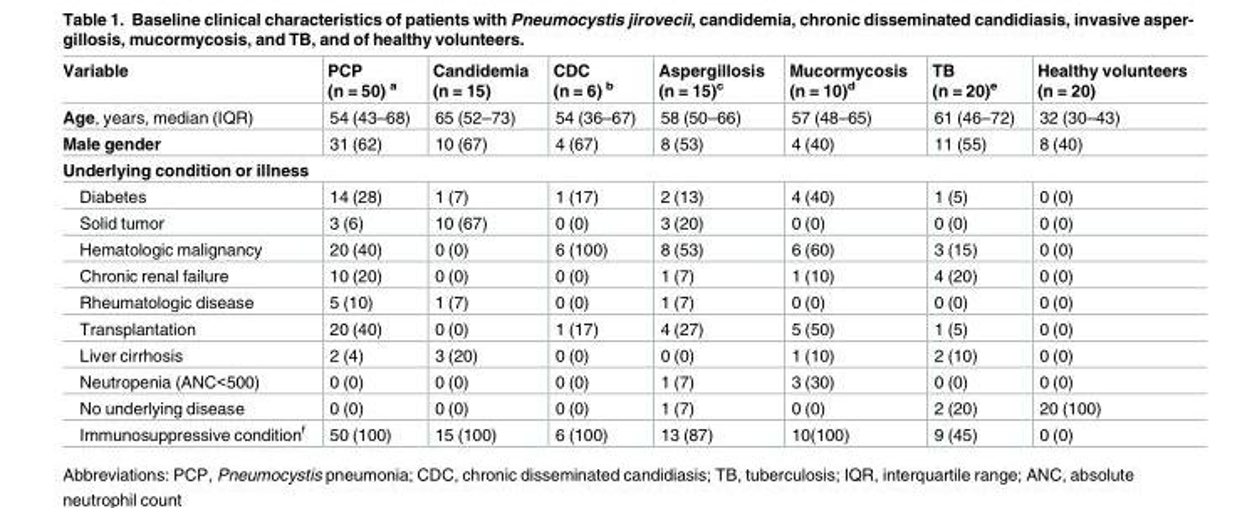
<table><thead><tr><td>Variable</td><td>PCP (n = 50) <sup>a</sup></td><td>Candidemia (n = 15)</td><td>CDC (n = 6) <sup>b</sup></td><td>Aspergillosis (n = 15)<sup>c</sup></td><td>Mucormycosis (n = 10)<sup>d</sup></td><td>TB (n = 20)<sup>e</sup></td><td>Healthy volunteers (n = 20)</td></tr></thead><tbody><tr><td>Age, years, median (IQR)</td><td>54 (43–68)</td><td>65 (52–73)</td><td>54 (36–67)</td><td>58 (50–66)</td><td>57 (48–65)</td><td>61 (46–72)</td><td>32 (30–43)</td></tr><tr><td>Male gender</td><td>31 (62)</td><td>10 (67)</td><td>4 (67)</td><td>8 (53)</td><td>4 (40)</td><td>11 (55)</td><td>8 (40)</td></tr><tr><td colspan="8">Underlying condition or illness</td></tr><tr><td>Diabetes</td><td>14 (28)</td><td>1 (7)</td><td>1 (17)</td><td>2 (13)</td><td>4 (40)</td><td>1 (5)</td><td>0 (0)</td></tr><tr><td>Solid tumor</td><td>3 (6)</td><td>10 (67)</td><td>0 (0)</td><td>3 (20)</td><td>0 (0)</td><td>0 (0)</td><td>0 (0)</td></tr><tr><td>Hematologic malignancy</td><td>20 (40)</td><td>0 (0)</td><td>6 (100)</td><td>8 (53)</td><td>6 (60)</td><td>3 (15)</td><td>0 (0)</td></tr><tr><td>Chronic renal failure</td><td>10 (20)</td><td>0 (0)</td><td>0 (0)</td><td>1 (7)</td><td>1 (10)</td><td>4 (20)</td><td>0 (0)</td></tr><tr><td>Rheumatologic disease</td><td>5 (10)</td><td>1 (7)</td><td>0 (0)</td><td>1 (7)</td><td>0 (0)</td><td>0 (0)</td><td>0 (0)</td></tr><tr><td>Transplantation</td><td>20 (40)</td><td>0 (0)</td><td>1 (17)</td><td>4 (27)</td><td>5 (50)</td><td>1 (5)</td><td>0 (0)</td></tr><tr><td>Liver cirrhosis</td><td>2 (4)</td><td>3 (20)</td><td>0 (0)</td><td>0 (0)</td><td>1 (10)</td><td>2 (10)</td><td>0 (0)</td></tr><tr><td>Neutropenia (ANC&lt;500)</td><td>0 (0)</td><td>0 (0)</td><td>0 (0)</td><td>1 (7)</td><td>3 (30)</td><td>0 (0)</td><td>0 (0)</td></tr><tr><td>No underlying disease</td><td>0 (0)</td><td>0 (0)</td><td>0 (0)</td><td>1 (7)</td><td>0 (0)</td><td>2 (20)</td><td>20 (100)</td></tr><tr><td>Immunosuppressive condition<sup>f</sup></td><td>50 (100)</td><td>15 (100)</td><td>6 (100)</td><td>13 (87)</td><td>10(100)</td><td>9 (45)</td><td>0 (0)</td></tr></tbody></table>